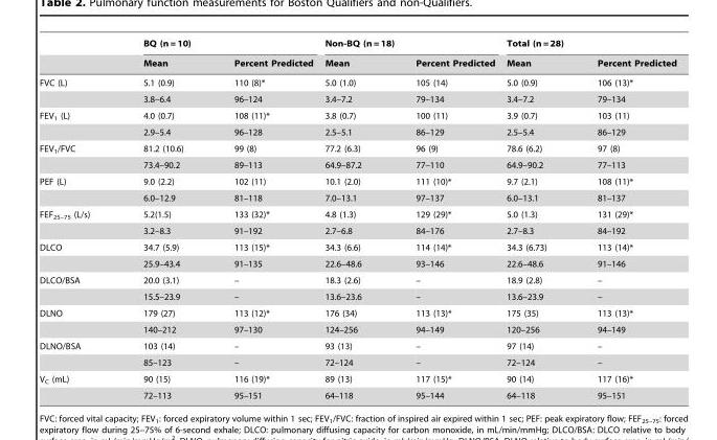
<table><thead><tr><td rowspan="2"></td><td colspan="2">BQ (n = 10)</td><td colspan="2">Non-BQ (n = 18)</td><td colspan="2">Total (n = 28)</td></tr><tr><td>Mean</td><td>Percent Predicted</td><td>Mean</td><td>Percent Predicted</td><td>Mean</td><td>Percent Predicted</td></tr></thead><tbody><tr><td rowspan="2">FVC (L)</td><td>5.1 (0.9)</td><td>110 (8)*</td><td>5.0 (1.0)</td><td>105 (14)</td><td>5.0 (0.9)</td><td>106 (13)*</td></tr><tr><td>3.8–6.4</td><td>96–124</td><td>3.4–7.2</td><td>79–134</td><td>3.4–7.2</td><td>79–134</td></tr><tr><td rowspan="2">FEV<sub>1</sub> (L)</td><td>4.0 (0.7)</td><td>108 (11)*</td><td>3.8 (0.7)</td><td>100 (11)</td><td>3.9 (0.7)</td><td>103 (11)</td></tr><tr><td>2.9–5.4</td><td>96–128</td><td>2.5–5.1</td><td>86–129</td><td>2.5–5.4</td><td>86–129</td></tr><tr><td rowspan="2">FEV<sub>1</sub>/FVC</td><td>81.2 (10.6)</td><td>99 (8)</td><td>77.2 (6.3)</td><td>96 (9)</td><td>78.6 (6.2)</td><td>97 (8)</td></tr><tr><td>73.4–90.2</td><td>89–113</td><td>64.9–87.2</td><td>77–110</td><td>64.9–90.2</td><td>77–113</td></tr><tr><td rowspan="2">PEF (L)</td><td>9.0 (2.2)</td><td>102 (11)</td><td>10.1 (2.0)</td><td>111 (10)*</td><td>9.7 (2.1)</td><td>108 (11)*</td></tr><tr><td>6.0–12.9</td><td>81–118</td><td>7.0–13.1</td><td>97–137</td><td>6.0–13.1</td><td>81–137</td></tr><tr><td rowspan="2">FEF<sub>25–75</sub> (L/s)</td><td>5.2(1.5)</td><td>133 (32)*</td><td>4.8 (1.3)</td><td>129 (29)*</td><td>5.0 (1.3)</td><td>131 (29)*</td></tr><tr><td>3.2–8.3</td><td>91–192</td><td>2.7–6.8</td><td>84–176</td><td>2.7–8.3</td><td>84–192</td></tr><tr><td rowspan="2">DLCO</td><td>34.7 (5.9)</td><td>113 (15)*</td><td>34.3 (6.6)</td><td>114 (14)*</td><td>34.3 (6.73)</td><td>113 (14)*</td></tr><tr><td>25.9–43.4</td><td>91–135</td><td>22.6–48.6</td><td>93–146</td><td>22.6–48.6</td><td>91–146</td></tr><tr><td rowspan="2">DLCO/BSA</td><td>20.0 (3.1)</td><td>–</td><td>18.3 (2.6)</td><td>–</td><td>18.9 (2.8)</td><td>–</td></tr><tr><td>15.5–23.9</td><td>–</td><td>13.6–23.6</td><td>–</td><td>13.6–23.9</td><td>–</td></tr><tr><td rowspan="2">DLNO</td><td>179 (27)</td><td>113 (12)*</td><td>176 (34)</td><td>113 (13)*</td><td>175 (35)</td><td>113 (13)*</td></tr><tr><td>140–212</td><td>97–130</td><td>124–256</td><td>94–149</td><td>120–256</td><td>94–149</td></tr><tr><td rowspan="2">DLNO/BSA</td><td>103 (14)</td><td>–</td><td>93 (13)</td><td>–</td><td>97 (14)</td><td>–</td></tr><tr><td>85–123</td><td>–</td><td>72–124</td><td>–</td><td>72–124</td><td>–</td></tr><tr><td rowspan="2">V<sub>C</sub> (mL)</td><td>90 (15)</td><td>116 (19)*</td><td>89 (13)</td><td>117 (15)*</td><td>90 (14)</td><td>117 (16)*</td></tr><tr><td>72–113</td><td>95–151</td><td>64–118</td><td>95–144</td><td>64–118</td><td>95–151</td></tr></tbody></table>